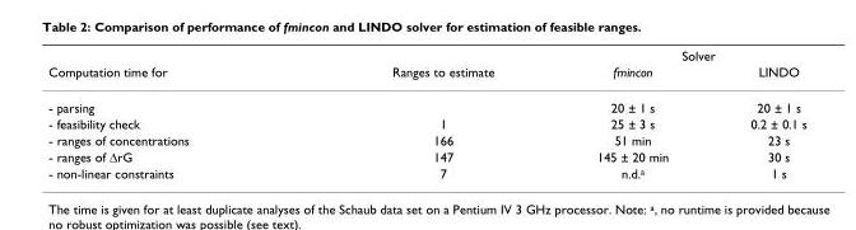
<table><thead><tr><td rowspan="2">Computation time for</td><td rowspan="2">Ranges to estimate</td><td colspan="2">Solver</td></tr><tr><td>fmincon</td><td>LINDO</td></tr></thead><tbody><tr><td>- parsing</td><td></td><td>20 ± 1 s</td><td>20 ± 1 s</td></tr><tr><td>- feasibility check</td><td>1</td><td>25 ± 3 s</td><td>0.2 ± 0.1 s</td></tr><tr><td>- ranges of concentrations</td><td>166</td><td>51 min</td><td>23 s</td></tr><tr><td>- ranges of ∆rG</td><td>147</td><td>145 ± 20 min</td><td>30 s</td></tr><tr><td>- non-linear constraints</td><td>7</td><td>n.d.<sup>a</sup></td><td>1 s</td></tr></tbody></table>